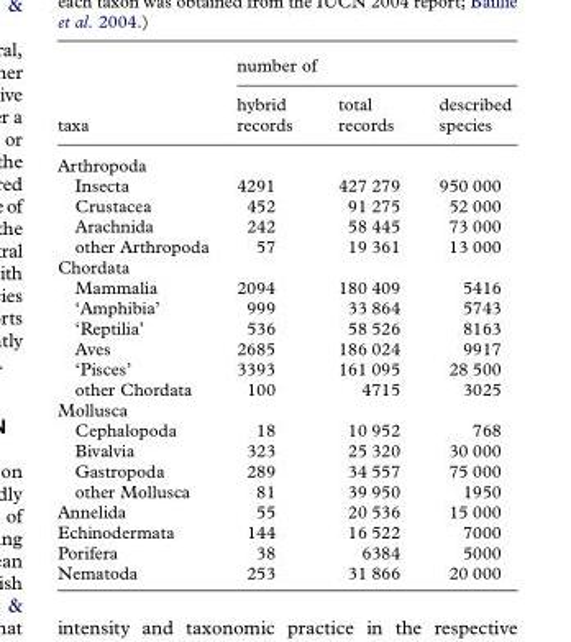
<table><thead><tr><td rowspan="2">taxa</td><td colspan="3">number of</td></tr><tr><td>hybrid records</td><td>total records</td><td>described species</td></tr></thead><tbody><tr><td colspan="4">Arthropoda</td></tr><tr><td>Insecta</td><td>4291</td><td>427 279</td><td>950 000</td></tr><tr><td>Crustacea</td><td>452</td><td>91 275</td><td>52 000</td></tr><tr><td>Arachnida</td><td>242</td><td>58 445</td><td>73 000</td></tr><tr><td>other Arthropoda</td><td>57</td><td>19 361</td><td>13 000</td></tr><tr><td colspan="4">Chordata</td></tr><tr><td>Mammalia</td><td>2094</td><td>180 409</td><td>5416</td></tr><tr><td>‘Amphibia’</td><td>999</td><td>33 864</td><td>5743</td></tr><tr><td>‘Reptilia’</td><td>536</td><td>58 526</td><td>8163</td></tr><tr><td>Aves</td><td>2685</td><td>186 024</td><td>9917</td></tr><tr><td>‘Pisces’</td><td>3393</td><td>161 095</td><td>28 500</td></tr><tr><td>other Chordata</td><td>100</td><td>4715</td><td>3025</td></tr><tr><td colspan="4">Mollusca</td></tr><tr><td>Cephalopoda</td><td>18</td><td>10 952</td><td>768</td></tr><tr><td>Bivalvia</td><td>323</td><td>25 320</td><td>30 000</td></tr><tr><td>Gastropoda</td><td>289</td><td>34 557</td><td>75 000</td></tr><tr><td>other Mollusca</td><td>81</td><td>39 950</td><td>1950</td></tr><tr><td>Annelida</td><td>55</td><td>20 536</td><td>15 000</td></tr><tr><td>Echinodermata</td><td>144</td><td>16 522</td><td>7000</td></tr><tr><td>Porifera</td><td>38</td><td>6384</td><td>5000</td></tr><tr><td>Nematoda</td><td>253</td><td>31 866</td><td>20 000</td></tr></tbody></table>